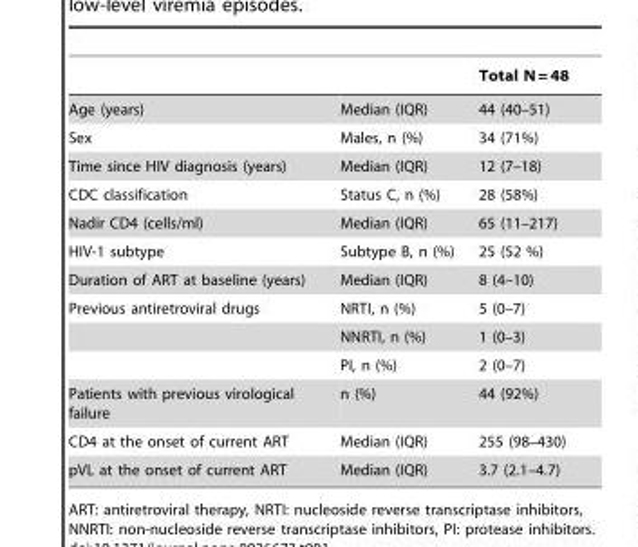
<table><thead><tr><td></td><td></td><td>Total N = 48</td></tr></thead><tbody><tr><td>Age (years)</td><td>Median (IQR)</td><td>44 (40–51)</td></tr><tr><td>Sex</td><td>Males, n (%)</td><td>34 (71%)</td></tr><tr><td>Time since HIV diagnosis (years)</td><td>Median (IQR)</td><td>12 (7–18)</td></tr><tr><td>CDC classification</td><td>Status C, n (%)</td><td>28 (58%)</td></tr><tr><td>Nadir CD4 (cells/ml)</td><td>Median (IQR)</td><td>65 (11–217)</td></tr><tr><td>HIV-1 subtype</td><td>Subtype B, n (%)</td><td>25 (52 %)</td></tr><tr><td>Duration of ART at baseline (years)</td><td>Median (IQR)</td><td>8 (4–10)</td></tr><tr><td rowspan="3">Previous antiretroviral drugs</td><td>NRTI, n (%)</td><td>5 (0–7)</td></tr><tr><td>NNRTI, n (%)</td><td>1 (0–3)</td></tr><tr><td>PI, n (%)</td><td>2 (0–7)</td></tr><tr><td>Patients with previous virological failure</td><td>n (%)</td><td>44 (92%)</td></tr><tr><td>CD4 at the onset of current ART</td><td>Median (IQR)</td><td>255 (98–430)</td></tr><tr><td>pVL at the onset of current ART</td><td>Median (IQR)</td><td>3.7 (2.1–4.7)</td></tr></tbody></table>